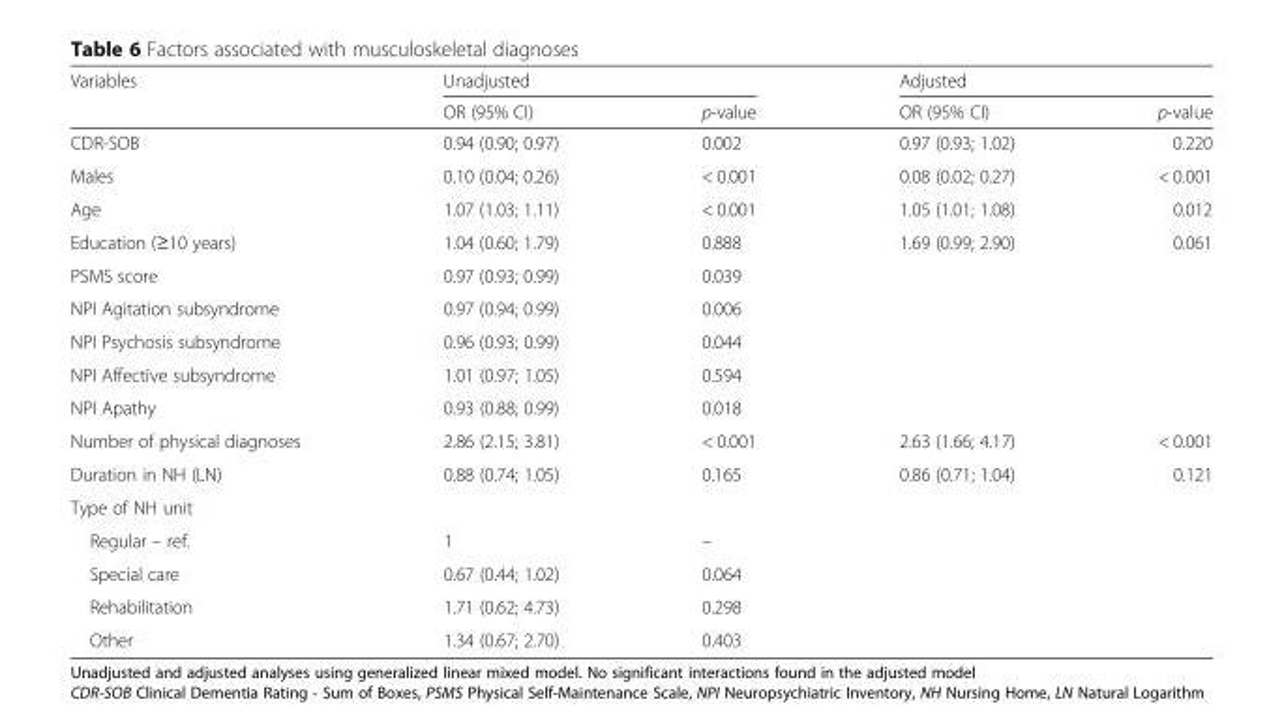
<table><thead><tr><td rowspan="2">Variables</td><td colspan="2">Unadjusted</td><td colspan="2">Adjusted</td></tr><tr><td>OR (95% CI)</td><td>p-value</td><td>OR (95% CI)</td><td>p-value</td></tr></thead><tbody><tr><td>CDR-SOB</td><td>0.94 (0.90; 0.97)</td><td>0.002</td><td>0.97 (0.93; 1.02)</td><td>0.220</td></tr><tr><td>Males</td><td>0.10 (0.04; 0.26)</td><td>&lt; 0.001</td><td>0.08 (0.02; 0.27)</td><td>&lt; 0.001</td></tr><tr><td>Age</td><td>1.07 (1.03; 1.11)</td><td>&lt; 0.001</td><td>1.05 (1.01; 1.08)</td><td>0.012</td></tr><tr><td>Education (≥10 years)</td><td>1.04 (0.60; 1.79)</td><td>0.888</td><td>1.69 (0.99; 2.90)</td><td>0.061</td></tr><tr><td>PSMS score</td><td>0.97 (0.93; 0.99)</td><td>0.039</td><td></td><td></td></tr><tr><td>NPI Agitation subsyndrome</td><td>0.97 (0.94; 0.99)</td><td>0.006</td><td></td><td></td></tr><tr><td>NPI Psychosis subsyndrome</td><td>0.96 (0.93; 0.99)</td><td>0.044</td><td></td><td></td></tr><tr><td>NPI Affective subsyndrome</td><td>1.01 (0.97; 1.05)</td><td>0.594</td><td></td><td></td></tr><tr><td>NPI Apathy</td><td>0.93 (0.88; 0.99)</td><td>0.018</td><td></td><td></td></tr><tr><td>Number of physical diagnoses</td><td>2.86 (2.15; 3.81)</td><td>&lt; 0.001</td><td>2.63 (1.66; 4.17)</td><td>&lt; 0.001</td></tr><tr><td>Duration in NH (LN)</td><td>0.88 (0.74; 1.05)</td><td>0.165</td><td>0.86 (0.71; 1.04)</td><td>0.121</td></tr><tr><td colspan="5">Type of NH unit</td></tr><tr><td>Regular – ref.</td><td>1</td><td>–</td><td></td><td></td></tr><tr><td>Special care</td><td>0.67 (0.44; 1.02)</td><td>0.064</td><td></td><td></td></tr><tr><td>Rehabilitation</td><td>1.71 (0.62; 4.73)</td><td>0.298</td><td></td><td></td></tr><tr><td>Other</td><td>1.34 (0.67; 2.70)</td><td>0.403</td><td></td><td></td></tr></tbody></table>